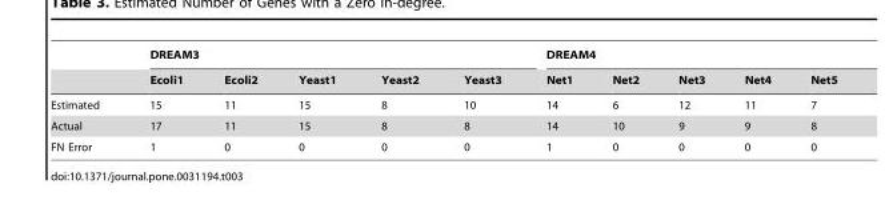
<table><thead><tr><td rowspan="2"></td><td colspan="5">DREAM3</td><td colspan="5">DREAM4</td></tr><tr><td>Ecoli1</td><td>Ecoli2</td><td>Yeast1</td><td>Yeast2</td><td>Yeast3</td><td>Net1</td><td>Net2</td><td>Net3</td><td>Net4</td><td>Net5</td></tr></thead><tbody><tr><td>Estimated</td><td>15</td><td>11</td><td>15</td><td>8</td><td>10</td><td>14</td><td>6</td><td>12</td><td>11</td><td>7</td></tr><tr><td>Actual</td><td>17</td><td>11</td><td>15</td><td>8</td><td>8</td><td>14</td><td>10</td><td>9</td><td>9</td><td>8</td></tr><tr><td>FN Error</td><td>1</td><td>0</td><td>0</td><td>0</td><td>0</td><td>1</td><td>0</td><td>0</td><td>0</td><td>0</td></tr></tbody></table>